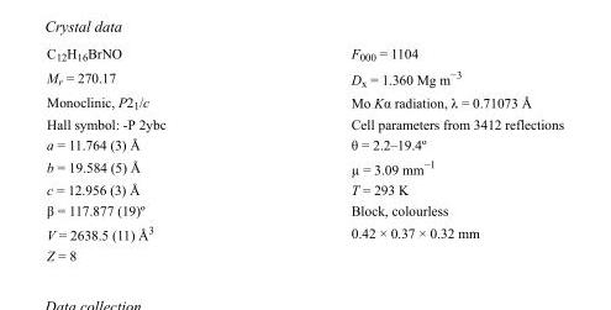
<table><tbody><tr><td>C<sub>12</sub>H<sub>16</sub>BrNO</td><td>F000 = 1104</td></tr><tr><td>M<sub>r</sub> = 270.17</td><td>D<sub>x</sub> = 1.360 Mg m<sup>−3</sup></td></tr><tr><td>Monoclinic, P2<sub>1</sub>/c</td><td>Mo Kα radiation, λ = 0.71073 Å</td></tr><tr><td>Hall symbol: -P 2ybc</td><td>Cell parameters from 3412 reflections</td></tr><tr><td>a = 11.764 (3) Å</td><td>θ = 2.2–19.4º</td></tr><tr><td>b = 19.584 (5) Å</td><td>µ = 3.09 mm<sup>−1</sup></td></tr><tr><td>c = 12.956 (3) Å</td><td>T = 293 K</td></tr><tr><td>β = 117.877 (19)º</td><td>Block, colourless</td></tr><tr><td>V = 2638.5 (11) Å<sup>3</sup></td><td>0.42 × 0.37 × 0.32 mm</td></tr><tr><td>Z = 8</td><td></td></tr></tbody></table>